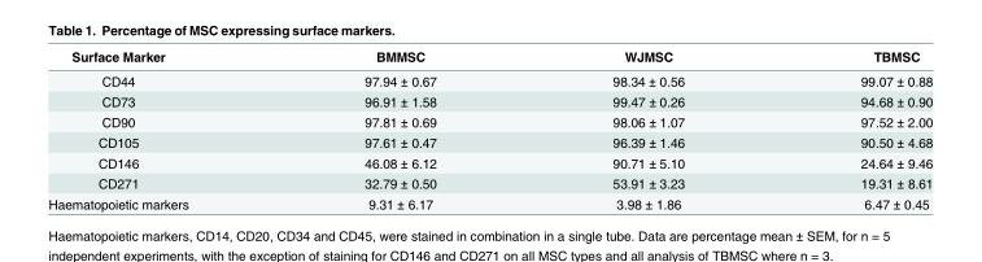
<table><thead><tr><td>Surface Marker</td><td>BMMSC</td><td>WJMSC</td><td>TBMSC</td></tr></thead><tbody><tr><td>CD44</td><td>97.94 ± 0.67</td><td>98.34 ± 0.56</td><td>99.07 ± 0.88</td></tr><tr><td>CD73</td><td>96.91 ± 1.58</td><td>99.47 ± 0.26</td><td>94.68 ± 0.90</td></tr><tr><td>CD90</td><td>97.81 ± 0.69</td><td>98.06 ± 1.07</td><td>97.52 ± 2.00</td></tr><tr><td>CD105</td><td>97.61 ± 0.47</td><td>96.39 ± 1.46</td><td>90.50 ± 4.68</td></tr><tr><td>CD146</td><td>46.08 ± 6.12</td><td>90.71 ± 5.10</td><td>24.64 ± 9.46</td></tr><tr><td>CD271</td><td>32.79 ± 0.50</td><td>53.91 ± 3.23</td><td>19.31 ± 8.61</td></tr><tr><td>Haematopoietic markers</td><td>9.31 ± 6.17</td><td>3.98 ± 1.86</td><td>6.47 ± 0.45</td></tr></tbody></table>